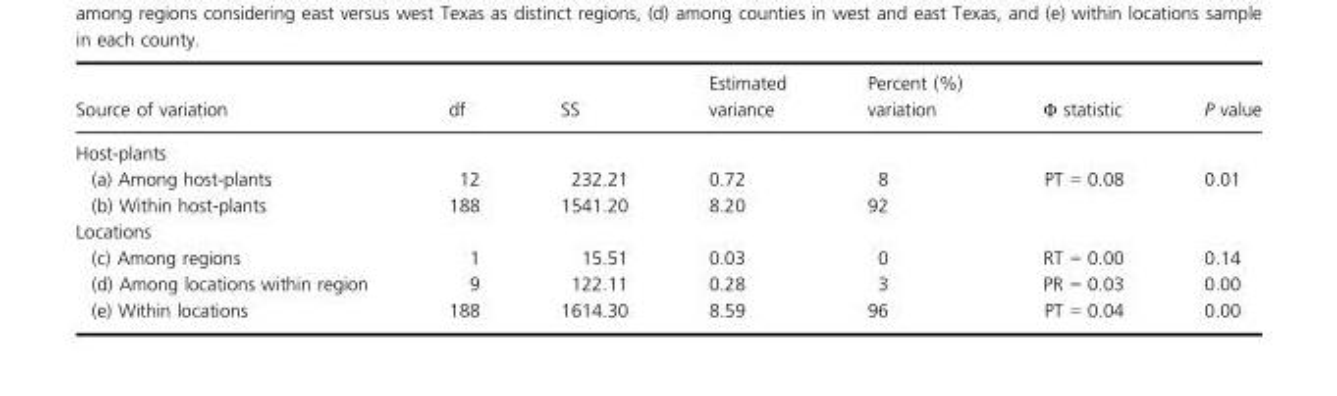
<table><thead><tr><td>Source of variation</td><td>df</td><td>SS</td><td>Estimated variance</td><td>Percent (%) variation</td><td>Φ statistic</td><td>P value</td></tr></thead><tbody><tr><td colspan="7">Host-plants</td></tr><tr><td>(a) Among host-plants</td><td>12</td><td>232.21</td><td>0.72</td><td>8</td><td rowspan="2">PT = 0.08</td><td rowspan="2">0.01</td></tr><tr><td>(b) Within host-plants</td><td>188</td><td>1541.20</td><td>8.20</td><td>92</td></tr><tr><td colspan="7">Locations</td></tr><tr><td>(c) Among regions</td><td>1</td><td>15.51</td><td>0.03</td><td>0</td><td>RT = 0.00</td><td>0.14</td></tr><tr><td>(d) Among locations within region</td><td>9</td><td>122.11</td><td>0.28</td><td>3</td><td>PR = 0.03</td><td>0.00</td></tr><tr><td>(e) Within locations</td><td>188</td><td>1614.30</td><td>8.59</td><td>96</td><td>PT = 0.04</td><td>0.00</td></tr></tbody></table>